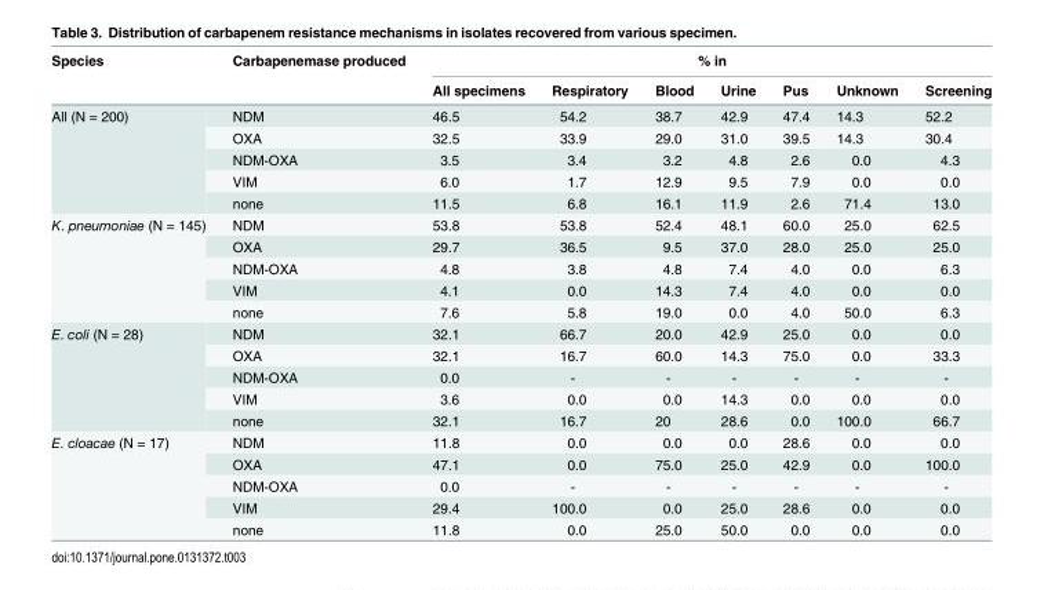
<table><thead><tr><td rowspan="2">Species</td><td rowspan="2">Carbapenemase produced</td><td colspan="7">% in</td></tr><tr><td>All specimens</td><td>Respiratory</td><td>Blood</td><td>Urine</td><td>Pus</td><td>Unknown</td><td>Screening</td></tr></thead><tbody><tr><td rowspan="5">All (N = 200)</td><td>NDM</td><td>46.5</td><td>54.2</td><td>38.7</td><td>42.9</td><td>47.4</td><td>14.3</td><td>52.2</td></tr><tr><td>OXA</td><td>32.5</td><td>33.9</td><td>29.0</td><td>31.0</td><td>39.5</td><td>14.3</td><td>30.4</td></tr><tr><td>NDM-OXA</td><td>3.5</td><td>3.4</td><td>3.2</td><td>4.8</td><td>2.6</td><td>0.0</td><td>4.3</td></tr><tr><td>VIM</td><td>6.0</td><td>1.7</td><td>12.9</td><td>9.5</td><td>7.9</td><td>0.0</td><td>0.0</td></tr><tr><td>none</td><td>11.5</td><td>6.8</td><td>16.1</td><td>11.9</td><td>2.6</td><td>71.4</td><td>13.0</td></tr><tr><td rowspan="5">K. pneumoniae (N = 145)</td><td>NDM</td><td>53.8</td><td>53.8</td><td>52.4</td><td>48.1</td><td>60.0</td><td>25.0</td><td>62.5</td></tr><tr><td>OXA</td><td>29.7</td><td>36.5</td><td>9.5</td><td>37.0</td><td>28.0</td><td>25.0</td><td>25.0</td></tr><tr><td>NDM-OXA</td><td>4.8</td><td>3.8</td><td>4.8</td><td>7.4</td><td>4.0</td><td>0.0</td><td>6.3</td></tr><tr><td>VIM</td><td>4.1</td><td>0.0</td><td>14.3</td><td>7.4</td><td>4.0</td><td>0.0</td><td>0.0</td></tr><tr><td>none</td><td>7.6</td><td>5.8</td><td>19.0</td><td>0.0</td><td>4.0</td><td>50.0</td><td>6.3</td></tr><tr><td rowspan="5">E. coli (N = 28)</td><td>NDM</td><td>32.1</td><td>66.7</td><td>20.0</td><td>42.9</td><td>25.0</td><td>0.0</td><td>0.0</td></tr><tr><td>OXA</td><td>32.1</td><td>16.7</td><td>60.0</td><td>14.3</td><td>75.0</td><td>0.0</td><td>33.3</td></tr><tr><td>NDM-OXA</td><td>0.0</td><td>-</td><td>-</td><td>-</td><td>-</td><td>-</td><td>-</td></tr><tr><td>VIM</td><td>3.6</td><td>0.0</td><td>0.0</td><td>14.3</td><td>0.0</td><td>0.0</td><td>0.0</td></tr><tr><td>none</td><td>32.1</td><td>16.7</td><td>20</td><td>28.6</td><td>0.0</td><td>100.0</td><td>66.7</td></tr><tr><td rowspan="5">E. cloacae (N = 17)</td><td>NDM</td><td>11.8</td><td>0.0</td><td>0.0</td><td>0.0</td><td>28.6</td><td>0.0</td><td>0.0</td></tr><tr><td>OXA</td><td>47.1</td><td>0.0</td><td>75.0</td><td>25.0</td><td>42.9</td><td>0.0</td><td>100.0</td></tr><tr><td>NDM-OXA</td><td>0.0</td><td>-</td><td>-</td><td>-</td><td>-</td><td>-</td><td>-</td></tr><tr><td>VIM</td><td>29.4</td><td>100.0</td><td>0.0</td><td>25.0</td><td>28.6</td><td>0.0</td><td>0.0</td></tr><tr><td>none</td><td>11.8</td><td>0.0</td><td>25.0</td><td>50.0</td><td>0.0</td><td>0.0</td><td>0.0</td></tr></tbody></table>